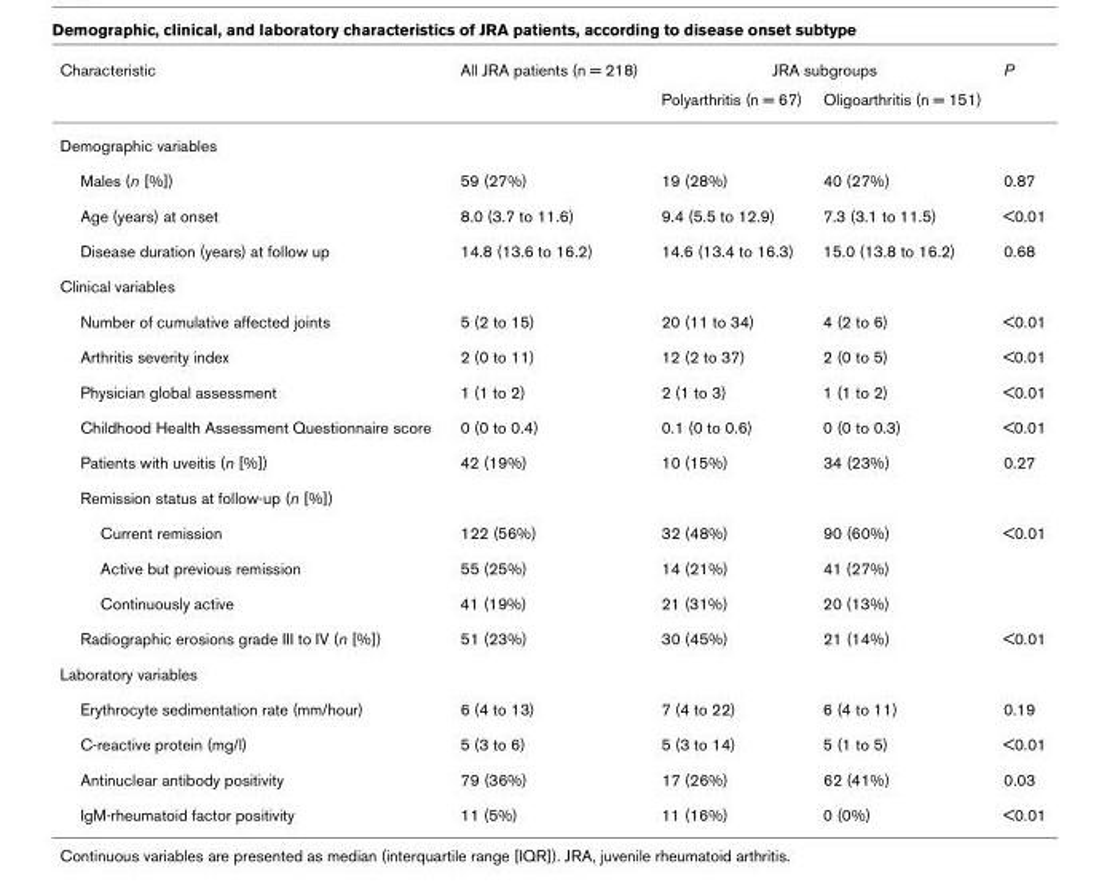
<table><thead><tr><td rowspan="2">Characteristic</td><td rowspan="2">All JRA patients (n = 218)</td><td colspan="2">JRA subgroups</td><td rowspan="2">P</td></tr><tr><td>Polyarthritis (n = 67)</td><td>Oligoarthritis (n = 151)</td></tr></thead><tbody><tr><td colspan="5">Demographic variables</td></tr><tr><td>Males (n [%])</td><td>59 (27%)</td><td>19 (28%)</td><td>40 (27%)</td><td>0.87</td></tr><tr><td>Age (years) at onset</td><td>8.0 (3.7 to 11.6)</td><td>9.4 (5.5 to 12.9)</td><td>7.3 (3.1 to 11.5)</td><td>&lt;0.01</td></tr><tr><td>Disease duration (years) at follow up</td><td>14.8 (13.6 to 16.2)</td><td>14.6 (13.4 to 16.3)</td><td>15.0 (13.8 to 16.2)</td><td>0.68</td></tr><tr><td colspan="5">Clinical variables</td></tr><tr><td>Number of cumulative affected joints</td><td>5 (2 to 15)</td><td>20 (11 to 34)</td><td>4 (2 to 6)</td><td>&lt;0.01</td></tr><tr><td>Arthritis severity index</td><td>2 (0 to 11)</td><td>12 (2 to 37)</td><td>2 (0 to 5)</td><td>&lt;0.01</td></tr><tr><td>Physician global assessment</td><td>1 (1 to 2)</td><td>2 (1 to 3)</td><td>1 (1 to 2)</td><td>&lt;0.01</td></tr><tr><td>Childhood Health Assessment Questionnaire score</td><td>0 (0 to 0.4)</td><td>0.1 (0 to 0.6)</td><td>0 (0 to 0.3)</td><td>&lt;0.01</td></tr><tr><td>Patients with uveitis (n [%])</td><td>42 (19%)</td><td>10 (15%)</td><td>34 (23%)</td><td>0.27</td></tr><tr><td colspan="5">Remission status at follow-up (n [%])</td></tr><tr><td>Current remission</td><td>122 (56%)</td><td>32 (48%)</td><td>90 (60%)</td><td>&lt;0.01</td></tr><tr><td>Active but previous remission</td><td>55 (25%)</td><td>14 (21%)</td><td>41 (27%)</td><td></td></tr><tr><td>Continuously active</td><td>41 (19%)</td><td>21 (31%)</td><td>20 (13%)</td><td></td></tr><tr><td>Radiographic erosions grade III to IV (n [%])</td><td>51 (23%)</td><td>30 (45%)</td><td>21 (14%)</td><td>&lt;0.01</td></tr><tr><td colspan="5">Laboratory variables</td></tr><tr><td>Erythrocyte sedimentation rate (mm/hour)</td><td>6 (4 to 13)</td><td>7 (4 to 22)</td><td>6 (4 to 11)</td><td>0.19</td></tr><tr><td>C-reactive protein (mg/l)</td><td>5 (3 to 6)</td><td>5 (3 to 14)</td><td>5 (1 to 5)</td><td>&lt;0.01</td></tr><tr><td>Antinuclear antibody positivity</td><td>79 (36%)</td><td>17 (26%)</td><td>62 (41%)</td><td>0.03</td></tr><tr><td>IgM-rheumatoid factor positivity</td><td>11 (5%)</td><td>11 (16%)</td><td>0 (0%)</td><td>&lt;0.01</td></tr></tbody></table>